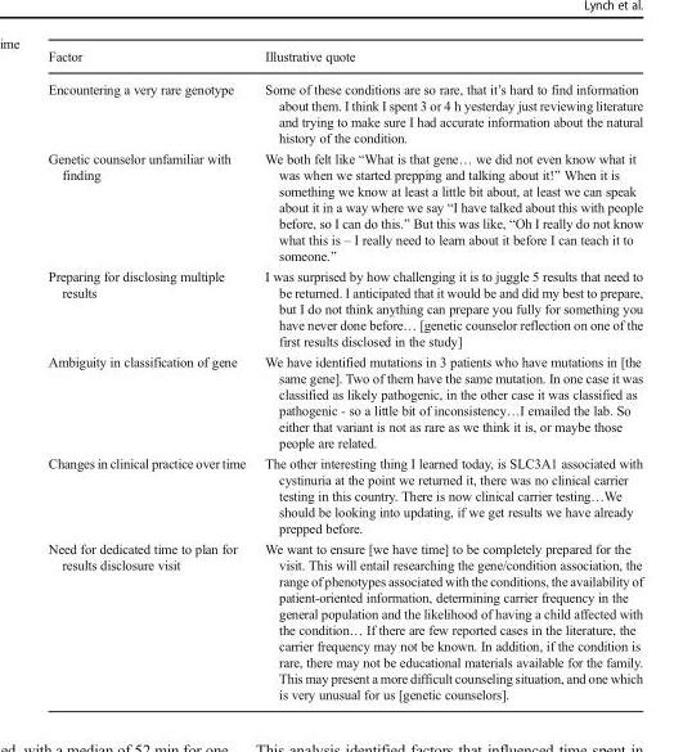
<table><thead><tr><td>Factor</td><td>Illustrative quote</td></tr></thead><tbody><tr><td>Encountering a very rare genotype</td><td>Some of these conditions are so rare, that it’s hard to find information about them. I think I spent 3 or 4 h yesterday just reviewing literature and trying to make sure I had accurate information about the natural history of the condition.</td></tr><tr><td>Genetic counselor unfamiliar with finding</td><td>We both felt like “What is that gene… we did not even know what it was when we started prepping and talking about it!” When it is something we know at least a little bit about, at least we can speak about it in a way where we say “I have talked about this with people before, so I can do this.” But this was like, “Oh I really do not know what this is – I really need to learn about it before I can teach it to someone.”</td></tr><tr><td>Preparing for disclosing multiple results</td><td>I was surprised by how challenging it is to juggle 5 results that need to be returned. I anticipated that it would be and did my best to prepare, but I do not think anything can prepare you fully for something you have never done before… [genetic counselor reflection on one of the first results disclosed in the study]</td></tr><tr><td>Ambiguity in classification of gene</td><td>We have identified mutations in 3 patients who have mutations in [the same gene]. Two of them have the same mutation. In one case it was classified as likely pathogenic, in the other case it was classified as pathogenic - so a little bit of inconsistency…I emailed the lab. So either that variant is not as rare as we think it is, or maybe those people are related.</td></tr><tr><td>Changes in clinical practice over time</td><td>The other interesting thing I learned today, is SLC3A1 associated with cystinuria at the point we returned it, there was no clinical carrier testing in this country. There is now clinical carrier testing…We should be looking into updating, if we get results we have already prepped before.</td></tr><tr><td>Need for dedicated time to plan for results disclosure visit</td><td>We want to ensure [we have time] to be completely prepared for the visit. This will entail researching the gene/condition association, the range of phenotypes associated with the conditions, the availability of patient-oriented information, determining carrier frequency in the general population and the likelihood of having a child affected with the condition… If there are few reported cases in the literature, the carrier frequency may not be known. In addition, if the condition is rare, there may not be educational materials available for the family. This may present a more difficult counseling situation, and one which is very unusual for us [genetic counselors].</td></tr></tbody></table>